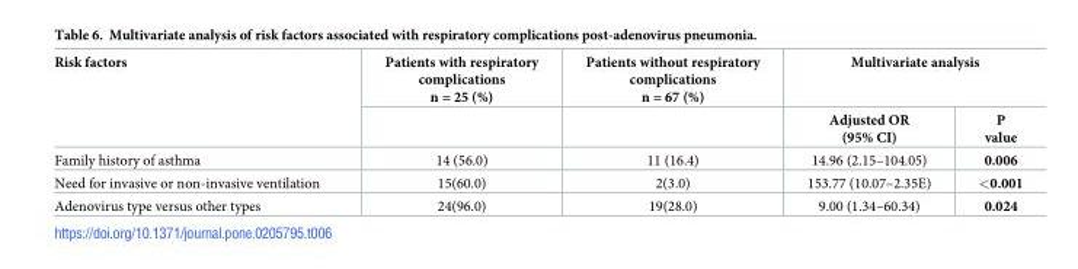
<table><thead><tr><td rowspan="2">Risk factors</td><td rowspan="2">Patients with respiratory complications n = 25 (%)</td><td rowspan="2">Patients without respiratory complications n = 67 (%)</td><td colspan="2">Multivariate analysis</td></tr><tr><td>Adjusted OR (95% CI)</td><td>P value</td></tr></thead><tbody><tr><td>Family history of asthma</td><td>14 (56.0)</td><td>11 (16.4)</td><td>14.96 (2.15–104.05)</td><td>0.006</td></tr><tr><td>Need for invasive or non-invasive ventilation</td><td>15(60.0)</td><td>2(3.0)</td><td>153.77 (10.07–2.35E)</td><td>&lt;0.001</td></tr><tr><td>Adenovirus type versus other types</td><td>24(96.0)</td><td>19(28.0)</td><td>9.00 (1.34–60.34)</td><td>0.024</td></tr></tbody></table>